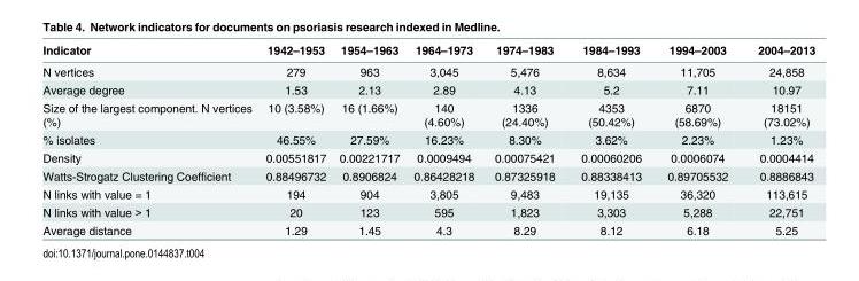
<table><thead><tr><td>Indicator</td><td>1942–1953</td><td>1954–1963</td><td>1964–1973</td><td>1974–1983</td><td>1984–1993</td><td>1994–2003</td><td>2004–2013</td></tr></thead><tbody><tr><td>N vertices</td><td>279</td><td>963</td><td>3,045</td><td>5,476</td><td>8,634</td><td>11,705</td><td>24,858</td></tr><tr><td>Average degree</td><td>1.53</td><td>2.13</td><td>2.89</td><td>4.13</td><td>5.2</td><td>7.11</td><td>10.97</td></tr><tr><td>Size of the largest component. N vertices (%)</td><td>10 (3.58%)</td><td>16 (1.66%)</td><td>140 (4.60%)</td><td>1336 (24.40%)</td><td>4353 (50.42%)</td><td>6870 (58.69%)</td><td>18151 (73.02%)</td></tr><tr><td>% isolates</td><td>46.55%</td><td>27.59%</td><td>16.23%</td><td>8.30%</td><td>3.62%</td><td>2.23%</td><td>1.23%</td></tr><tr><td>Density</td><td>0.00551817</td><td>0.00221717</td><td>0.0009494</td><td>0.00075421</td><td>0.00060206</td><td>0.0006074</td><td>0.0004414</td></tr><tr><td>Watts-Strogatz Clustering Coefficient</td><td>0.88496732</td><td>0.8906824</td><td>0.86428218</td><td>0.87325918</td><td>0.88338413</td><td>0.89705532</td><td>0.8886843</td></tr><tr><td>N links with value = 1</td><td>194</td><td>904</td><td>3,805</td><td>9,483</td><td>19,135</td><td>36,320</td><td>113,615</td></tr><tr><td>N links with value &gt; 1</td><td>20</td><td>123</td><td>595</td><td>1,823</td><td>3,303</td><td>5,288</td><td>22,751</td></tr><tr><td>Average distance</td><td>1.29</td><td>1.45</td><td>4.3</td><td>8.29</td><td>8.12</td><td>6.18</td><td>5.25</td></tr></tbody></table>